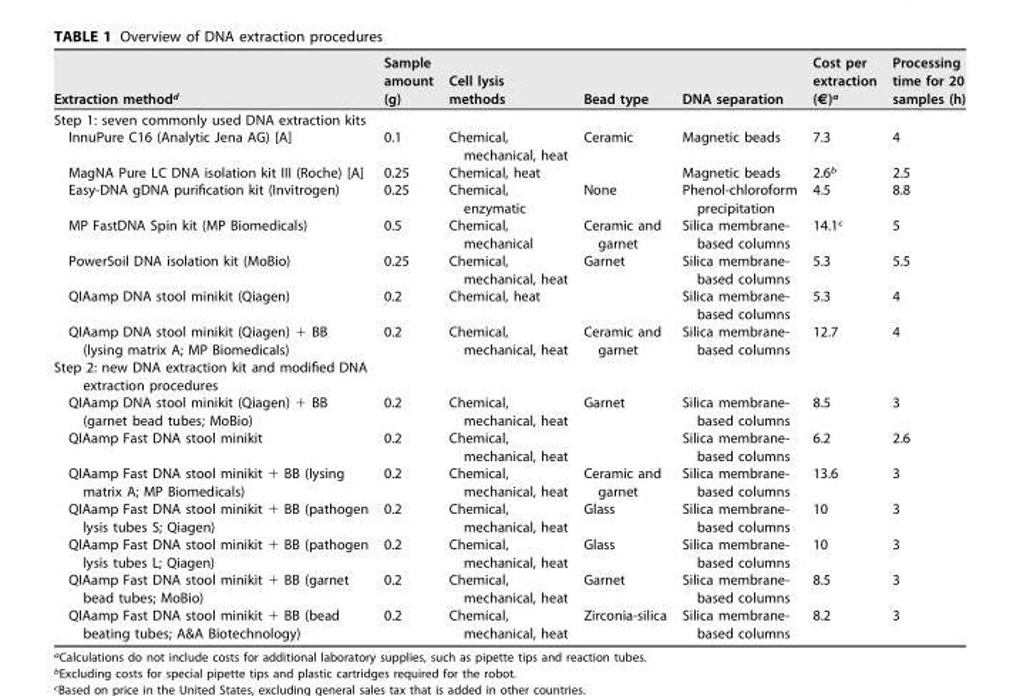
<table><thead><tr><td>Extraction method<sup>d</sup></td><td>Sample amount (g)</td><td>Cell lysis methods</td><td>Bead type</td><td>DNA separation</td><td>Cost per extraction (€)<sup>a</sup></td><td>Processing time for 20 samples (h)</td></tr></thead><tbody><tr><td colspan="7">Step 1: seven commonly used DNA extraction kits</td></tr><tr><td>InnuPure C16 (Analytic Jena AG) [A]</td><td>0.1</td><td>Chemical, mechanical, heat</td><td>Ceramic</td><td>Magnetic beads</td><td>7.3</td><td>4</td></tr><tr><td>MagNA Pure LC DNA isolation kit III (Roche) [A]</td><td>0.25</td><td>Chemical, heat</td><td></td><td>Magnetic beads</td><td>2.6<sup>b</sup></td><td>2.5</td></tr><tr><td>Easy-DNA gDNA purification kit (Invitrogen)</td><td>0.25</td><td>Chemical, enzymatic</td><td>None</td><td>Phenol-chloroform precipitation</td><td>4.5</td><td>8.8</td></tr><tr><td>MP FastDNA Spin kit (MP Biomedicals)</td><td>0.5</td><td>Chemical, mechanical</td><td>Ceramic and garnet</td><td>Silica membrane- based columns</td><td>14.1<sup>c</sup></td><td>5</td></tr><tr><td>PowerSoil DNA isolation kit (MoBio)</td><td>0.25</td><td>Chemical, mechanical, heat</td><td>Garnet</td><td>Silica membrane- based columns</td><td>5.3</td><td>5.5</td></tr><tr><td>QIAamp DNA stool minikit (Qiagen)</td><td>0.2</td><td>Chemical, heat</td><td></td><td>Silica membrane- based columns</td><td>5.3</td><td>4</td></tr><tr><td>QIAamp DNA stool minikit (Qiagen) + BB (lysing matrix A; MP Biomedicals)</td><td>0.2</td><td>Chemical, mechanical, heat</td><td>Ceramic and garnet</td><td>Silica membrane- based columns</td><td>12.7</td><td>4</td></tr><tr><td colspan="7">Step 2: new DNA extraction kit and modified DNA extraction procedures</td></tr><tr><td>QIAamp DNA stool minikit (Qiagen) + BB (garnet bead tubes; MoBio)</td><td>0.2</td><td>Chemical, mechanical, heat</td><td>Garnet</td><td>Silica membrane- based columns</td><td>8.5</td><td>3</td></tr><tr><td>QIAamp Fast DNA stool minikit</td><td>0.2</td><td>Chemical, mechanical, heat</td><td></td><td>Silica membrane- based columns</td><td>6.2</td><td>2.6</td></tr><tr><td>QIAamp Fast DNA stool minikit + BB (lysing matrix A; MP Biomedicals)</td><td>0.2</td><td>Chemical, mechanical, heat</td><td>Ceramic and garnet</td><td>Silica membrane- based columns</td><td>13.6</td><td>3</td></tr><tr><td>QIAamp Fast DNA stool minikit + BB (pathogen lysis tubes S; Qiagen)</td><td>0.2</td><td>Chemical, mechanical, heat</td><td>Glass</td><td>Silica membrane- based columns</td><td>10</td><td>3</td></tr><tr><td>QIAamp Fast DNA stool minikit + BB (pathogen lysis tubes L; Qiagen)</td><td>0.2</td><td>Chemical, mechanical, heat</td><td>Glass</td><td>Silica membrane- based columns</td><td>10</td><td>3</td></tr><tr><td>QIAamp Fast DNA stool minikit + BB (garnet bead tubes; MoBio)</td><td>0.2</td><td>Chemical, mechanical, heat</td><td>Garnet</td><td>Silica membrane- based columns</td><td>8.5</td><td>3</td></tr><tr><td>QIAamp Fast DNA stool minikit + BB (bead beating tubes; A&amp;A Biotechnology)</td><td>0.2</td><td>Chemical, mechanical, heat</td><td>Zirconia-silica</td><td>Silica membrane- based columns</td><td>8.2</td><td>3</td></tr></tbody></table>